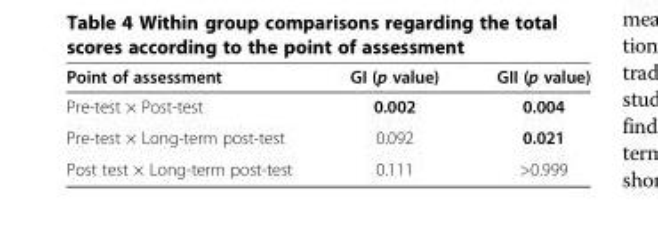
<table><thead><tr><td>Point of assessment</td><td>GI (p value)</td><td>GII (p value)</td></tr></thead><tbody><tr><td>Pre-test × Post-test</td><td>0.002</td><td>0.004</td></tr><tr><td>Pre-test × Long-term post-test</td><td>0.092</td><td>0.021</td></tr><tr><td>Post test × Long-term post-test</td><td>0.111</td><td>&gt;0.999</td></tr></tbody></table>